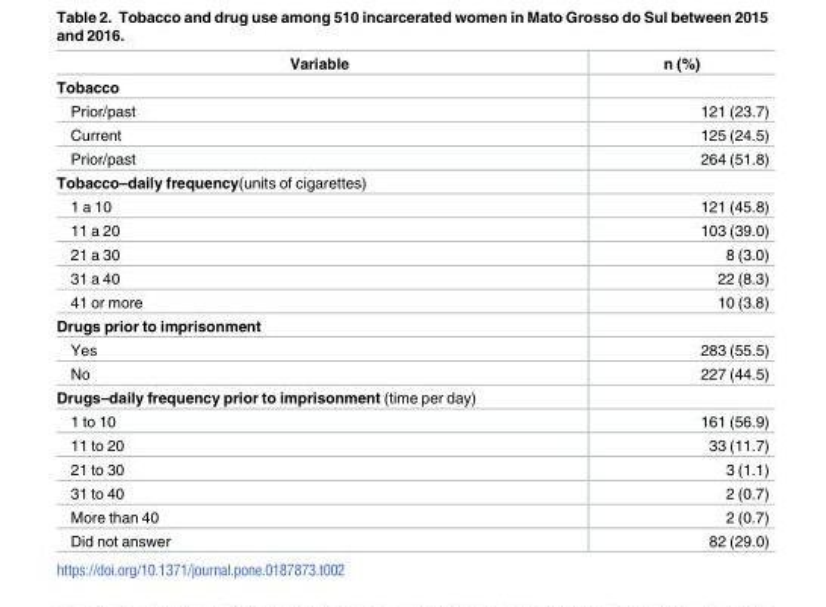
<table><thead><tr><td>Variable</td><td>n (%)</td></tr></thead><tbody><tr><td colspan="2">Tobacco</td></tr><tr><td>Prior/past</td><td>121 (23.7)</td></tr><tr><td>Current</td><td>125 (24.5)</td></tr><tr><td>Prior/past</td><td>264 (51.8)</td></tr><tr><td colspan="2">Tobacco–daily frequency(units of cigarettes)</td></tr><tr><td>1 a 10</td><td>121 (45.8)</td></tr><tr><td>11 a 20</td><td>103 (39.0)</td></tr><tr><td>21 a 30</td><td>8 (3.0)</td></tr><tr><td>31 a 40</td><td>22 (8.3)</td></tr><tr><td>41 or more</td><td>10 (3.8)</td></tr><tr><td colspan="2">Drugs prior to imprisonment</td></tr><tr><td>Yes</td><td>283 (55.5)</td></tr><tr><td>No</td><td>227 (44.5)</td></tr><tr><td colspan="2">Drugs–daily frequency prior to imprisonment (time per day)</td></tr><tr><td>1 to 10</td><td>161 (56.9)</td></tr><tr><td>11 to 20</td><td>33 (11.7)</td></tr><tr><td>21 to 30</td><td>3 (1.1)</td></tr><tr><td>31 to 40</td><td>2 (0.7)</td></tr><tr><td>More than 40</td><td>2 (0.7)</td></tr><tr><td>Did not answer</td><td>82 (29.0)</td></tr></tbody></table>